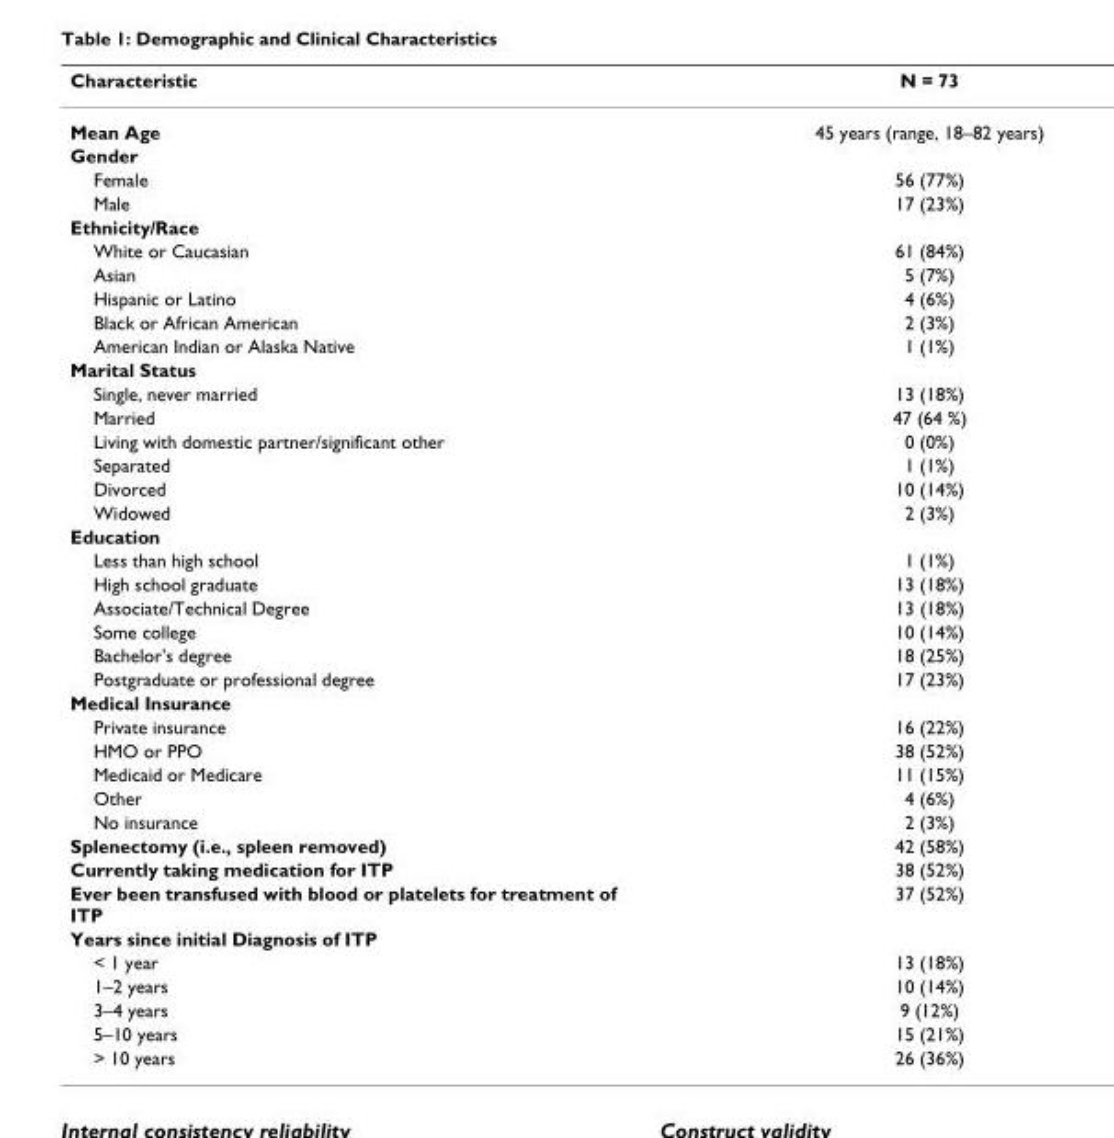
<table><thead><tr><td>Characteristic</td><td>N = 73</td></tr></thead><tbody><tr><td>Mean Age</td><td>45 years (range, 18–82 years)</td></tr><tr><td colspan="2">Gender</td></tr><tr><td>Female</td><td>56 (77%)</td></tr><tr><td>Male</td><td>17 (23%)</td></tr><tr><td colspan="2">Ethnicity/Race</td></tr><tr><td>White or Caucasian</td><td>61 (84%)</td></tr><tr><td>Asian</td><td>5 (7%)</td></tr><tr><td>Hispanic or Latino</td><td>4 (6%)</td></tr><tr><td>Black or African American</td><td>2 (3%)</td></tr><tr><td>American Indian or Alaska Native</td><td>1 (1%)</td></tr><tr><td colspan="2">Marital Status</td></tr><tr><td>Single, never married</td><td>13 (18%)</td></tr><tr><td>Married</td><td>47 (64 %)</td></tr><tr><td>Living with domestic partner/significant other</td><td>0 (0%)</td></tr><tr><td>Separated</td><td>1 (1%)</td></tr><tr><td>Divorced</td><td>10 (14%)</td></tr><tr><td>Widowed</td><td>2 (3%)</td></tr><tr><td colspan="2">Education</td></tr><tr><td>Less than high school</td><td>1 (1%)</td></tr><tr><td>High school graduate</td><td>13 (18%)</td></tr><tr><td>Associate/Technical Degree</td><td>13 (18%)</td></tr><tr><td>Some college</td><td>10 (14%)</td></tr><tr><td>Bachelor&#x27;s degree</td><td>18 (25%)</td></tr><tr><td>Postgraduate or professional degree</td><td>17 (23%)</td></tr><tr><td colspan="2">Medical Insurance</td></tr><tr><td>Private insurance</td><td>16 (22%)</td></tr><tr><td>HMO or PPO</td><td>38 (52%)</td></tr><tr><td>Medicaid or Medicare</td><td>11 (15%)</td></tr><tr><td>Other</td><td>4 (6%)</td></tr><tr><td>No insurance</td><td>2 (3%)</td></tr><tr><td>Splenectomy (i.e., spleen removed)</td><td>42 (58%)</td></tr><tr><td>Currently taking medication for ITP</td><td>38 (52%)</td></tr><tr><td>Ever been transfused with blood or platelets for treatment of ITP</td><td>37 (52%)</td></tr><tr><td colspan="2">Years since initial Diagnosis of ITP</td></tr><tr><td>&lt; 1 year</td><td>13 (18%)</td></tr><tr><td>1–2 years</td><td>10 (14%)</td></tr><tr><td>3–4 years</td><td>9 (12%)</td></tr><tr><td>5–10 years</td><td>15 (21%)</td></tr><tr><td>&gt; 10 years</td><td>26 (36%)</td></tr></tbody></table>